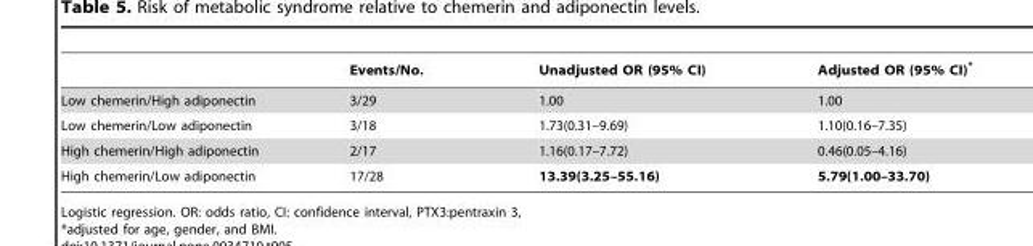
<table><thead><tr><td></td><td>Events/No.</td><td>Unadjusted OR (95% CI)</td><td>Adjusted OR (95% CI)*</td></tr></thead><tbody><tr><td>Low chemerin/High adiponectin</td><td>3/29</td><td>1.00</td><td>1.00</td></tr><tr><td>Low chemerin/Low adiponectin</td><td>3/18</td><td>1.73(0.31–9.69)</td><td>1.10(0.16–7.35)</td></tr><tr><td>High chemerin/High adiponectin</td><td>2/17</td><td>1.16(0.17–7.72)</td><td>0.46(0.05–4.16)</td></tr><tr><td>High chemerin/Low adiponectin</td><td>17/28</td><td>13.39(3.25–55.16)</td><td>5.79(1.00–33.70)</td></tr></tbody></table>